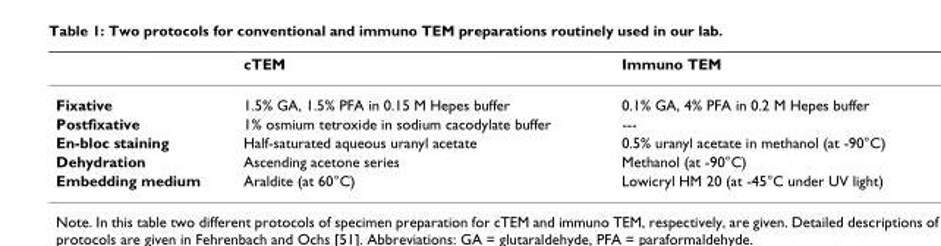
<table><thead><tr><td></td><td>cTEM</td><td>Immuno TEM</td></tr></thead><tbody><tr><td>Fixative</td><td>1.5% GA, 1.5% PFA in 0.15 M Hepes buffer</td><td>0.1% GA, 4% PFA in 0.2 M Hepes buffer</td></tr><tr><td>Postfixative</td><td>1% osmium tetroxide in sodium cacodylate buffer</td><td>---</td></tr><tr><td>En-bloc staining</td><td>Half-saturated aqueous uranyl acetate</td><td>0.5% uranyl acetate in methanol (at -90°C)</td></tr><tr><td>Dehydration</td><td>Ascending acetone series</td><td>Methanol (at -90°C)</td></tr><tr><td>Embedding medium</td><td>Araldite (at 60°C)</td><td>Lowicryl HM 20 (at -45°C under UV light)</td></tr></tbody></table>